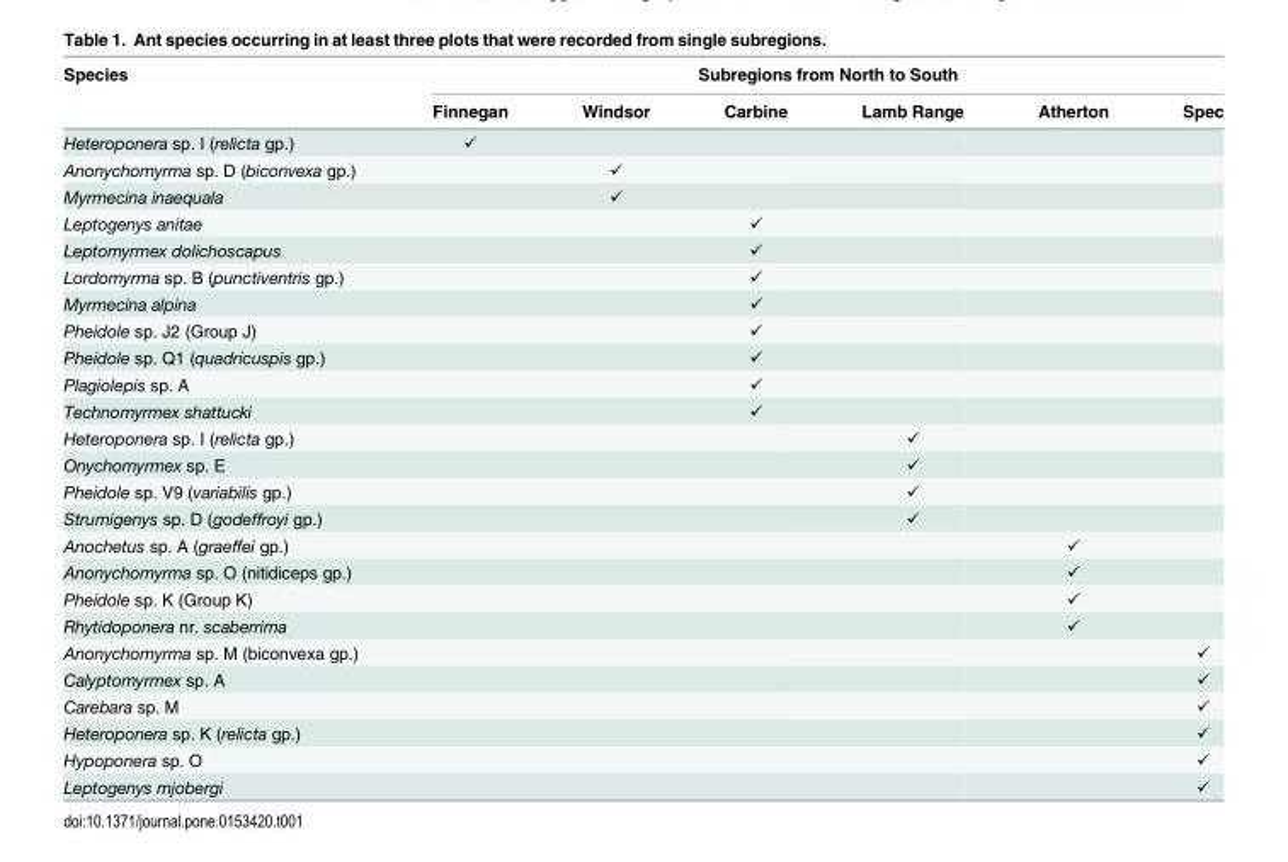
<table><thead><tr><td rowspan="2">Species</td><td colspan="6">Subregions from North to South</td></tr><tr><td>Finnegan</td><td>Windsor</td><td>Carbine</td><td>Lamb Range</td><td>Atherton</td><td>Spec</td></tr></thead><tbody><tr><td>Heteroponera sp. I (relicta gp.)</td><td>✓</td><td></td><td></td><td></td><td></td><td></td></tr><tr><td>Anonychomyrma sp. D (biconvexa gp.)</td><td></td><td>✓</td><td></td><td></td><td></td><td></td></tr><tr><td>Myrmecina inaequala</td><td></td><td>✓</td><td></td><td></td><td></td><td></td></tr><tr><td>Leptogenys anitae</td><td></td><td></td><td>✓</td><td></td><td></td><td></td></tr><tr><td>Leptomyrmex dolichoscapus</td><td></td><td></td><td>✓</td><td></td><td></td><td></td></tr><tr><td>Lordomyrma sp. B (punctiventris gp.)</td><td></td><td></td><td>✓</td><td></td><td></td><td></td></tr><tr><td>Myrmecina alpina</td><td></td><td></td><td>✓</td><td></td><td></td><td></td></tr><tr><td>Pheidole sp. J2 (Group J)</td><td></td><td></td><td>✓</td><td></td><td></td><td></td></tr><tr><td>Pheidole sp. Q1 (quadricuspis gp.)</td><td></td><td></td><td>✓</td><td></td><td></td><td></td></tr><tr><td>Plagiolepis sp. A</td><td></td><td></td><td>✓</td><td></td><td></td><td></td></tr><tr><td>Technomyrmex shattucki</td><td></td><td></td><td>✓</td><td></td><td></td><td></td></tr><tr><td>Heteroponera sp. I (relicta gp.)</td><td></td><td></td><td></td><td>✓</td><td></td><td></td></tr><tr><td>Onychomyrmex sp. E</td><td></td><td></td><td></td><td>✓</td><td></td><td></td></tr><tr><td>Pheidole sp. V9 (variabilis gp.)</td><td></td><td></td><td></td><td>✓</td><td></td><td></td></tr><tr><td>Strumigenys sp. D (godeffroyi gp.)</td><td></td><td></td><td></td><td>✓</td><td></td><td></td></tr><tr><td>Anochetus sp. A (graeffei gp.)</td><td></td><td></td><td></td><td></td><td>✓</td><td></td></tr><tr><td>Anonychomyrma sp. O (nitidiceps gp.)</td><td></td><td></td><td></td><td></td><td>✓</td><td></td></tr><tr><td>Pheidole sp. K (Group K)</td><td></td><td></td><td></td><td></td><td>✓</td><td></td></tr><tr><td>Rhytidoponera nr. scaberrima</td><td></td><td></td><td></td><td></td><td>✓</td><td></td></tr><tr><td>Anonychomyrma sp. M (biconvexa gp.)</td><td></td><td></td><td></td><td></td><td></td><td>✓</td></tr><tr><td>Calyptomyrmex sp. A</td><td></td><td></td><td></td><td></td><td></td><td>✓</td></tr><tr><td>Carebara sp. M</td><td></td><td></td><td></td><td></td><td></td><td>✓</td></tr><tr><td>Heteroponera sp. K (relicta gp.)</td><td></td><td></td><td></td><td></td><td></td><td>✓</td></tr><tr><td>Hypoponera sp. O</td><td></td><td></td><td></td><td></td><td></td><td>✓</td></tr><tr><td>Leptogenys mjobergi</td><td></td><td></td><td></td><td></td><td></td><td>✓</td></tr></tbody></table>